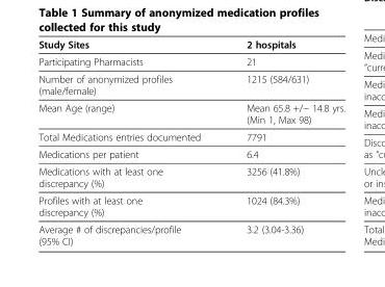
<table><thead><tr><td>Study Sites</td><td>2 hospitals</td></tr></thead><tbody><tr><td>Participating Pharmacists</td><td>21</td></tr><tr><td>Number of anonymized profiles (male/female)</td><td>1215 (584/631)</td></tr><tr><td>Mean Age (range)</td><td>Mean 65.8 +/− 14.8 yrs. (Min 1, Max 98)</td></tr><tr><td>Total Medications entries documented</td><td>7791</td></tr><tr><td>Medications per patient</td><td>6.4</td></tr><tr><td>Medications with at least one discrepancy (%)</td><td>3256 (41.8%)</td></tr><tr><td>Profiles with at least one discrepancy (%)</td><td>1024 (84.3%)</td></tr><tr><td>Average # of discrepancies/profile (95% CI)</td><td>3.2 (3.04-3.36)</td></tr></tbody></table>